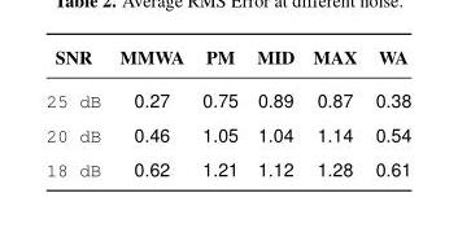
<table><thead><tr><td>SNR</td><td>MMWA</td><td>PM</td><td>MID</td><td>MAX</td><td>WA</td></tr></thead><tbody><tr><td>25 dB</td><td>0.27</td><td>0.75</td><td>0.89</td><td>0.87</td><td>0.38</td></tr><tr><td>20 dB</td><td>0.46</td><td>1.05</td><td>1.04</td><td>1.14</td><td>0.54</td></tr><tr><td>18 dB</td><td>0.62</td><td>1.21</td><td>1.12</td><td>1.28</td><td>0.61</td></tr></tbody></table>